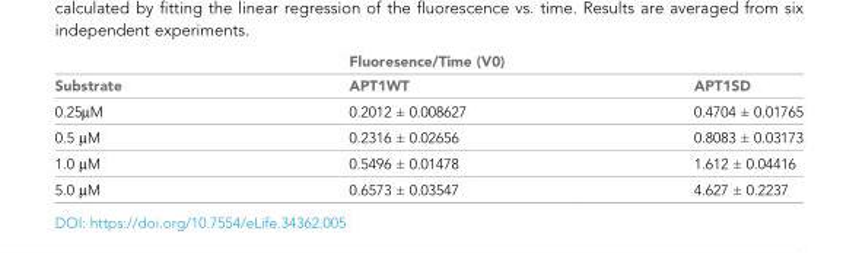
<table><thead><tr><td rowspan="2">Substrate</td><td colspan="2">Fluoresence/Time (V0)</td></tr><tr><td>APT1WT</td><td>APT1SD</td></tr></thead><tbody><tr><td>0.25μM</td><td>0.2012 ± 0.008627</td><td>0.4704 ± 0.01765</td></tr><tr><td>0.5 µM</td><td>0.2316 ± 0.02656</td><td>0.8083 ± 0.03173</td></tr><tr><td>1.0 µM</td><td>0.5496 ± 0.01478</td><td>1.612 ± 0.04416</td></tr><tr><td>5.0 µM</td><td>0.6573 ± 0.03547</td><td>4.627 ± 0.2237</td></tr></tbody></table>